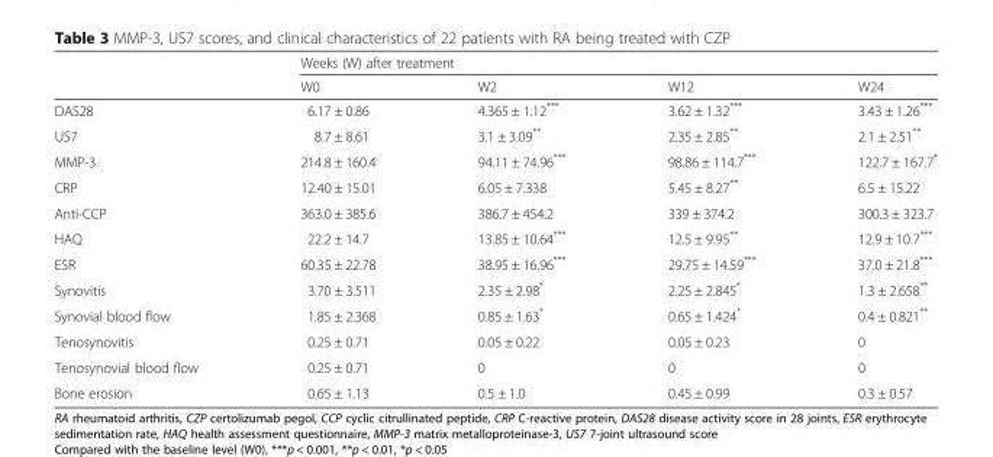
<table><thead><tr><td rowspan="2"></td><td colspan="4">Weeks (W) after treatment</td></tr><tr><td>W0</td><td>W2</td><td>W12</td><td>W24</td></tr></thead><tbody><tr><td>DAS28</td><td>6.17 ± 0.86</td><td>4.365 ± 1.12***</td><td>3.62 ± 1.32***</td><td>3.43 ± 1.26***</td></tr><tr><td>US7</td><td>8.7 ± 8.61</td><td>3.1 ± 3.09**</td><td>2.35 ± 2.85**</td><td>2.1 ± 2.51**</td></tr><tr><td>MMP-3</td><td>214.8 ± 160.4</td><td>94.11 ± 74.96***</td><td>98.86 ± 114.7***</td><td>122.7 ± 167.7*</td></tr><tr><td>CRP</td><td>12.40 ± 15.01</td><td>6.05 ± 7.338</td><td>5.45 ± 8.27**</td><td>6.5 ± 15.22</td></tr><tr><td>Anti-CCP</td><td>363.0 ± 385.6</td><td>386.7 ± 454.2</td><td>339 ± 374.2</td><td>300.3 ± 323.7</td></tr><tr><td>HAQ</td><td>22.2 ± 14.7</td><td>13.85 ± 10.64***</td><td>12.5 ± 9.95**</td><td>12.9 ± 10.7***</td></tr><tr><td>ESR</td><td>60.35 ± 22.78</td><td>38.95 ± 16.96***</td><td>29.75 ± 14.59***</td><td>37.0 ± 21.8***</td></tr><tr><td>Synovitis</td><td>3.70 ± 3.511</td><td>2.35 ± 2.98*</td><td>2.25 ± 2.845*</td><td>1.3 ± 2.658**</td></tr><tr><td>Synovial blood flow</td><td>1.85 ± 2.368</td><td>0.85 ± 1.63*</td><td>0.65 ± 1.424*</td><td>0.4 ± 0.821**</td></tr><tr><td>Tenosynovitis</td><td>0.25 ± 0.71</td><td>0.05 ± 0.22</td><td>0.05 ± 0.23</td><td>0</td></tr><tr><td>Tenosynovial blood flow</td><td>0.25 ± 0.71</td><td>0</td><td>0</td><td>0</td></tr><tr><td>Bone erosion</td><td>0.65 ± 1.13</td><td>0.5 ± 1.0</td><td>0.45 ± 0.99</td><td>0.3 ± 0.57</td></tr></tbody></table>